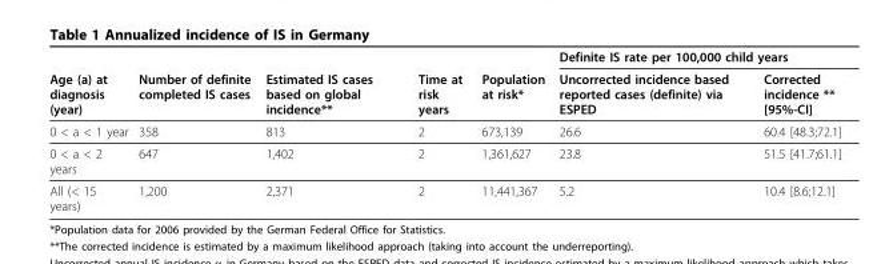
<table><thead><tr><td rowspan="2">Age (a) at diagnosis (year)</td><td rowspan="2">Number of definite completed IS cases</td><td rowspan="2">Estimated IS cases based on global incidence**</td><td rowspan="2">Time at risk years</td><td rowspan="2">Population at risk*</td><td colspan="2">Definite IS rate per 100,000 child years</td></tr><tr><td>Uncorrected incidence based reported cases (definite) via ESPED</td><td>Corrected incidence ** [95%-CI]</td></tr></thead><tbody><tr><td>0 &lt; a &lt; 1 year</td><td>358</td><td>813</td><td>2</td><td>673,139</td><td>26.6</td><td>60.4 [48.3;72.1]</td></tr><tr><td>0 &lt; a &lt; 2 years</td><td>647</td><td>1,402</td><td>2</td><td>1,361,627</td><td>23.8</td><td>51.5 [41.7;61.1]</td></tr><tr><td>All (&lt; 15 years)</td><td>1,200</td><td>2,371</td><td>2</td><td>11,441,367</td><td>5.2</td><td>10.4 [8.6;12.1]</td></tr></tbody></table>